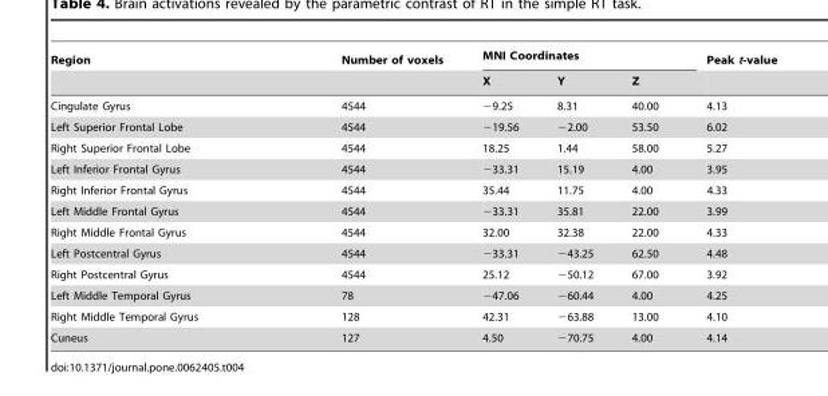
<table><thead><tr><td rowspan="2">Region</td><td rowspan="2">Number of voxels</td><td colspan="3">MNI Coordinates</td><td rowspan="2">Peak t-value</td></tr><tr><td>X</td><td>Y</td><td>Z</td></tr></thead><tbody><tr><td>Cingulate Gyrus</td><td>4544</td><td>−9.25</td><td>8.31</td><td>40.00</td><td>4.13</td></tr><tr><td>Left Superior Frontal Lobe</td><td>4544</td><td>−19.56</td><td>−2.00</td><td>53.50</td><td>6.02</td></tr><tr><td>Right Superior Frontal Lobe</td><td>4544</td><td>18.25</td><td>1.44</td><td>58.00</td><td>5.27</td></tr><tr><td>Left Inferior Frontal Gyrus</td><td>4544</td><td>−33.31</td><td>15.19</td><td>4.00</td><td>3.95</td></tr><tr><td>Right Inferior Frontal Gyrus</td><td>4544</td><td>35.44</td><td>11.75</td><td>4.00</td><td>4.33</td></tr><tr><td>Left Middle Frontal Gyrus</td><td>4544</td><td>−33.31</td><td>35.81</td><td>22.00</td><td>3.99</td></tr><tr><td>Right Middle Frontal Gyrus</td><td>4544</td><td>32.00</td><td>32.38</td><td>22.00</td><td>4.33</td></tr><tr><td>Left Postcentral Gyrus</td><td>4544</td><td>−33.31</td><td>−43.25</td><td>62.50</td><td>4.48</td></tr><tr><td>Right Postcentral Gyrus</td><td>4544</td><td>25.12</td><td>−50.12</td><td>67.00</td><td>3.92</td></tr><tr><td>Left Middle Temporal Gyrus</td><td>78</td><td>−47.06</td><td>−60.44</td><td>4.00</td><td>4.25</td></tr><tr><td>Right Middle Temporal Gyrus</td><td>128</td><td>42.31</td><td>−63.88</td><td>13.00</td><td>4.10</td></tr><tr><td>Cuneus</td><td>127</td><td>4.50</td><td>−70.75</td><td>4.00</td><td>4.14</td></tr></tbody></table>